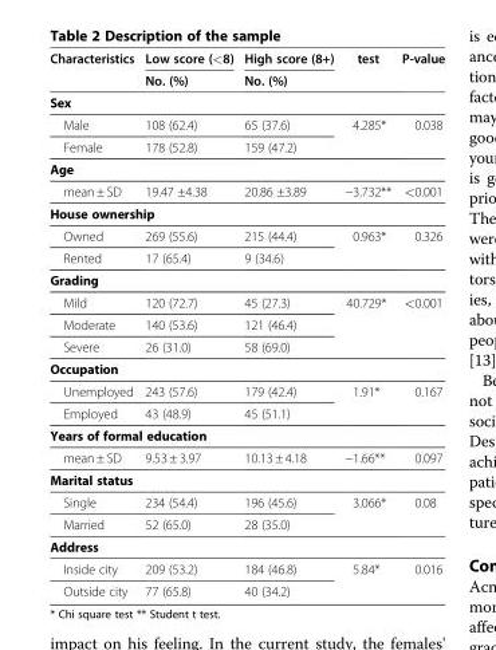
<table><thead><tr><td rowspan="2">Characteristics</td><td rowspan="2">Low score (&lt;8) No. (%)</td><td rowspan="2">High score (8+) No. (%)</td><td rowspan="2">test</td><td rowspan="2">P-value</td></tr><tr></tr></thead><tbody><tr><td colspan="5">Sex</td></tr><tr><td>Male</td><td>108 (62.4)</td><td>65 (37.6)</td><td>4.285*</td><td>0.038</td></tr><tr><td>Female</td><td>178 (52.8)</td><td>159 (47.2)</td><td></td><td></td></tr><tr><td colspan="5">Age</td></tr><tr><td>mean ± SD</td><td>19.47 ±4.38</td><td>20.86 ±3.89</td><td>−3.732**</td><td>&lt;0.001</td></tr><tr><td colspan="5">House ownership</td></tr><tr><td>Owned</td><td>269 (55.6)</td><td>215 (44.4)</td><td>0.963*</td><td>0.326</td></tr><tr><td>Rented</td><td>17 (65.4)</td><td>9 (34.6)</td><td></td><td></td></tr><tr><td colspan="5">Grading</td></tr><tr><td>Mild</td><td>120 (72.7)</td><td>45 (27.3)</td><td>40.729*</td><td>&lt;0.001</td></tr><tr><td>Moderate</td><td>140 (53.6)</td><td>121 (46.4)</td><td></td><td></td></tr><tr><td>Severe</td><td>26 (31.0)</td><td>58 (69.0)</td><td></td><td></td></tr><tr><td colspan="5">Occupation</td></tr><tr><td>Unemployed</td><td>243 (57.6)</td><td>179 (42.4)</td><td>1.91*</td><td>0.167</td></tr><tr><td>Employed</td><td>43 (48.9)</td><td>45 (51.1)</td><td></td><td></td></tr><tr><td colspan="5">Years of formal education</td></tr><tr><td>mean ± SD</td><td>9.53 ± 3.97</td><td>10.13 ± 4.18</td><td>−1.66**</td><td>0.097</td></tr><tr><td colspan="5">Marital status</td></tr><tr><td>Single</td><td>234 (54.4)</td><td>196 (45.6)</td><td>3.066*</td><td>0.08</td></tr><tr><td>Married</td><td>52 (65.0)</td><td>28 (35.0)</td><td></td><td></td></tr><tr><td colspan="5">Address</td></tr><tr><td>Inside city</td><td>209 (53.2)</td><td>184 (46.8)</td><td>5.84*</td><td>0.016</td></tr><tr><td>Outside city</td><td>77 (65.8)</td><td>40 (34.2)</td><td></td><td></td></tr></tbody></table>